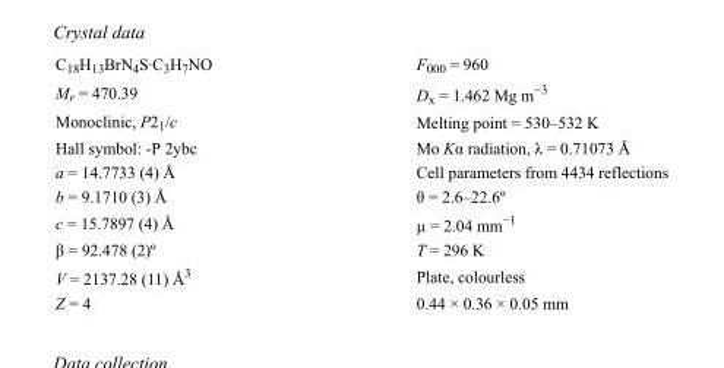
<table><tbody><tr><td>C<sub>18</sub>H<sub>13</sub>BrN<sub>4</sub>S·C<sub>3</sub>H<sub>7</sub>NO</td><td>F000 = 960</td></tr><tr><td>M<sub>r</sub> = 470.39</td><td>D<sub>x</sub> = 1.462 Mg m<sup>−3</sup></td></tr><tr><td>Monoclinic, P2<sub>1</sub>/c</td><td>Melting point = 530–532 K</td></tr><tr><td>Hall symbol: -P 2ybc</td><td>Mo Kα radiation, λ = 0.71073 Å</td></tr><tr><td>a = 14.7733 (4) Å</td><td>Cell parameters from 4434 reflections</td></tr><tr><td>b = 9.1710 (3) Å</td><td>θ = 2.6–22.6º</td></tr><tr><td>c = 15.7897 (4) Å</td><td>µ = 2.04 mm<sup>−1</sup></td></tr><tr><td>β = 92.478 (2)º</td><td>T = 296 K</td></tr><tr><td>V = 2137.28 (11) Å<sup>3</sup></td><td>Plate, colourless</td></tr><tr><td>Z = 4</td><td>0.44 × 0.36 × 0.05 mm</td></tr></tbody></table>